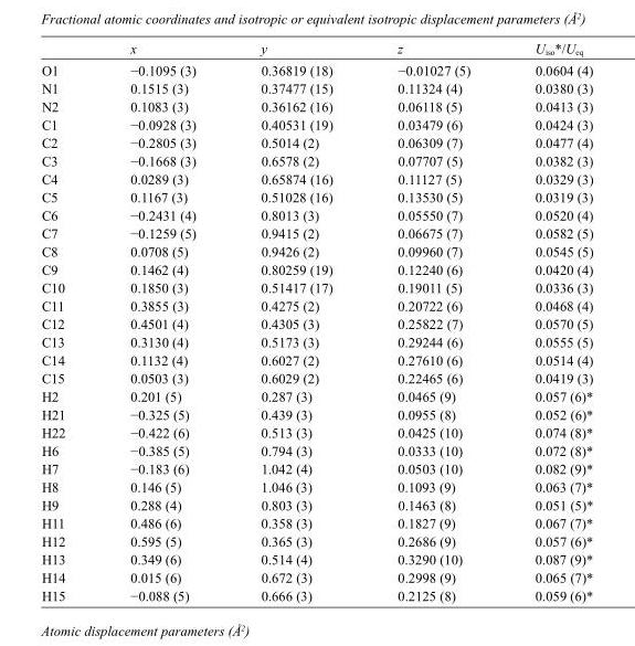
<table><thead><tr><td></td><td>x</td><td>y</td><td>z</td><td>U<sub>iso</sub>*/U<sub>eq</sub></td></tr></thead><tbody><tr><td>O1</td><td>−0.1095 (3)</td><td>0.36819 (18)</td><td>−0.01027 (5)</td><td>0.0604 (4)</td></tr><tr><td>N1</td><td>0.1515 (3)</td><td>0.37477 (15)</td><td>0.11324 (4)</td><td>0.0380 (3)</td></tr><tr><td>N2</td><td>0.1083 (3)</td><td>0.36162 (16)</td><td>0.06118 (5)</td><td>0.0413 (3)</td></tr><tr><td>C1</td><td>−0.0928 (3)</td><td>0.40531 (19)</td><td>0.03479 (6)</td><td>0.0424 (3)</td></tr><tr><td>C2</td><td>−0.2805 (3)</td><td>0.5014 (2)</td><td>0.06309 (7)</td><td>0.0477 (4)</td></tr><tr><td>C3</td><td>−0.1668 (3)</td><td>0.6578 (2)</td><td>0.07707 (5)</td><td>0.0382 (3)</td></tr><tr><td>C4</td><td>0.0289 (3)</td><td>0.65874 (16)</td><td>0.11127 (5)</td><td>0.0329 (3)</td></tr><tr><td>C5</td><td>0.1167 (3)</td><td>0.51028 (16)</td><td>0.13530 (5)</td><td>0.0319 (3)</td></tr><tr><td>C6</td><td>−0.2431 (4)</td><td>0.8013 (3)</td><td>0.05550 (7)</td><td>0.0520 (4)</td></tr><tr><td>C7</td><td>−0.1259 (5)</td><td>0.9415 (2)</td><td>0.06675 (7)</td><td>0.0582 (5)</td></tr><tr><td>C8</td><td>0.0708 (5)</td><td>0.9426 (2)</td><td>0.09960 (7)</td><td>0.0545 (5)</td></tr><tr><td>C9</td><td>0.1462 (4)</td><td>0.80259 (19)</td><td>0.12240 (6)</td><td>0.0420 (4)</td></tr><tr><td>C10</td><td>0.1850 (3)</td><td>0.51417 (17)</td><td>0.19011 (5)</td><td>0.0336 (3)</td></tr><tr><td>C11</td><td>0.3855 (3)</td><td>0.4275 (2)</td><td>0.20722 (6)</td><td>0.0468 (4)</td></tr><tr><td>C12</td><td>0.4501 (4)</td><td>0.4305 (3)</td><td>0.25822 (7)</td><td>0.0570 (5)</td></tr><tr><td>C13</td><td>0.3130 (4)</td><td>0.5173 (3)</td><td>0.29244 (6)</td><td>0.0555 (5)</td></tr><tr><td>C14</td><td>0.1132 (4)</td><td>0.6027 (2)</td><td>0.27610 (6)</td><td>0.0514 (4)</td></tr><tr><td>C15</td><td>0.0503 (3)</td><td>0.6029 (2)</td><td>0.22465 (6)</td><td>0.0419 (3)</td></tr><tr><td>H2</td><td>0.201 (5)</td><td>0.287 (3)</td><td>0.0465 (9)</td><td>0.057 (6)*</td></tr><tr><td>H21</td><td>−0.325 (5)</td><td>0.439 (3)</td><td>0.0955 (8)</td><td>0.052 (6)*</td></tr><tr><td>H22</td><td>−0.422 (6)</td><td>0.513 (3)</td><td>0.0425 (10)</td><td>0.074 (8)*</td></tr><tr><td>H6</td><td>−0.385 (5)</td><td>0.794 (3)</td><td>0.0333 (10)</td><td>0.072 (8)*</td></tr><tr><td>H7</td><td>−0.183 (6)</td><td>1.042 (4)</td><td>0.0503 (10)</td><td>0.082 (9)*</td></tr><tr><td>H8</td><td>0.146 (5)</td><td>1.046 (3)</td><td>0.1093 (9)</td><td>0.063 (7)*</td></tr><tr><td>H9</td><td>0.288 (4)</td><td>0.803 (3)</td><td>0.1463 (8)</td><td>0.051 (5)*</td></tr><tr><td>H11</td><td>0.486 (6)</td><td>0.358 (3)</td><td>0.1827 (9)</td><td>0.067 (7)*</td></tr><tr><td>H12</td><td>0.595 (5)</td><td>0.365 (3)</td><td>0.2686 (9)</td><td>0.057 (6)*</td></tr><tr><td>H13</td><td>0.349 (6)</td><td>0.514 (4)</td><td>0.3290 (10)</td><td>0.087 (9)*</td></tr><tr><td>H14</td><td>0.015 (6)</td><td>0.672 (3)</td><td>0.2998 (9)</td><td>0.065 (7)*</td></tr><tr><td>H15</td><td>−0.088 (5)</td><td>0.666 (3)</td><td>0.2125 (8)</td><td>0.059 (6)*</td></tr></tbody></table>